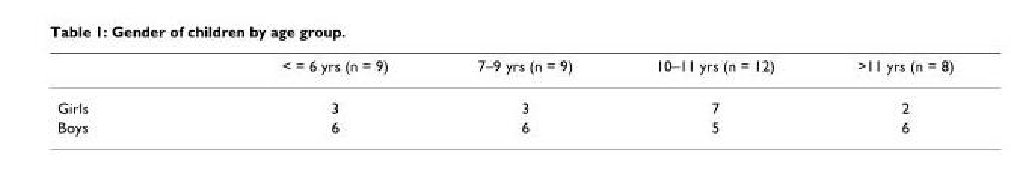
<table><thead><tr><td></td><td>&lt; = 6 yrs (n = 9)</td><td>7–9 yrs (n = 9)</td><td>10–11 yrs (n = 12)</td><td>&gt;11 yrs (n = 8)</td></tr></thead><tbody><tr><td>Girls</td><td>3</td><td>3</td><td>7</td><td>2</td></tr><tr><td>Boys</td><td>6</td><td>6</td><td>5</td><td>6</td></tr></tbody></table>